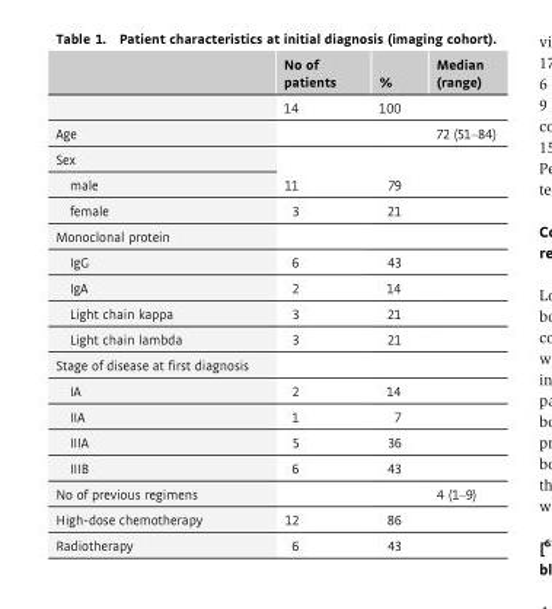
<table><thead><tr><td></td><td>No of patients</td><td>%</td><td>Median (range)</td></tr></thead><tbody><tr><td></td><td>14</td><td>100</td><td></td></tr><tr><td>Age</td><td></td><td></td><td>72 (51–84)</td></tr><tr><td colspan="4">Sex</td></tr><tr><td>male</td><td>11</td><td>79</td><td></td></tr><tr><td>female</td><td>3</td><td>21</td><td></td></tr><tr><td colspan="4">Monoclonal protein</td></tr><tr><td>IgG</td><td>6</td><td>43</td><td></td></tr><tr><td>IgA</td><td>2</td><td>14</td><td></td></tr><tr><td>Light chain kappa</td><td>3</td><td>21</td><td></td></tr><tr><td>Light chain lambda</td><td>3</td><td>21</td><td></td></tr><tr><td colspan="4">Stage of disease at first diagnosis</td></tr><tr><td>IA</td><td>2</td><td>14</td><td></td></tr><tr><td>IIA</td><td>1</td><td>7</td><td></td></tr><tr><td>IIIA</td><td>5</td><td>36</td><td></td></tr><tr><td>IIIB</td><td>6</td><td>43</td><td></td></tr><tr><td>No of previous regimens</td><td></td><td></td><td>4 (1–9)</td></tr><tr><td>High-dose chemotherapy</td><td>12</td><td>86</td><td></td></tr><tr><td>Radiotherapy</td><td>6</td><td>43</td><td></td></tr></tbody></table>